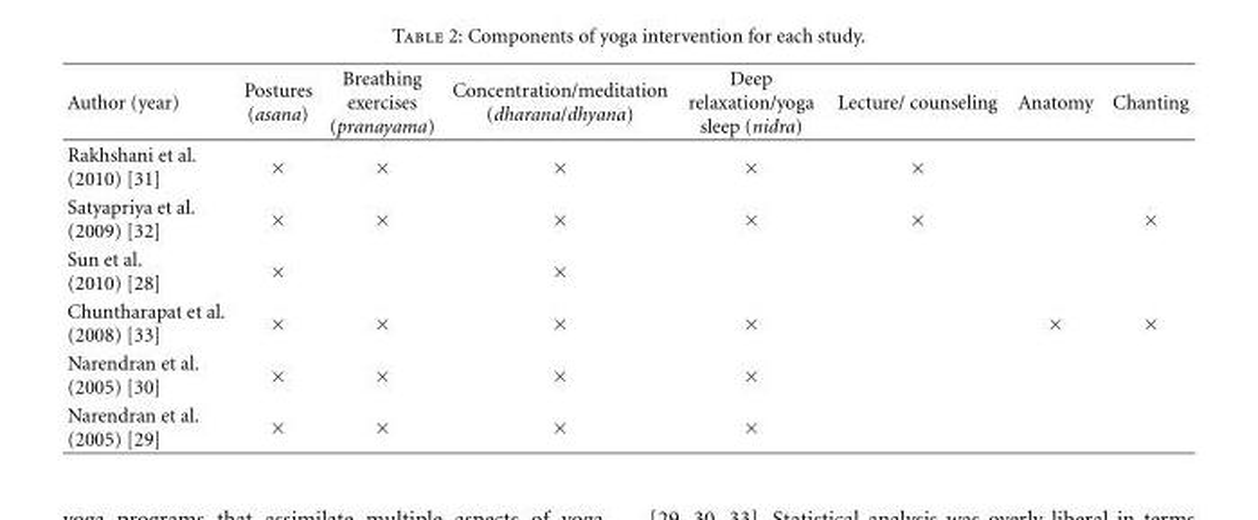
<table><thead><tr><td>Author (year)</td><td>Postures (asana)</td><td>Breathing exercises (pranayama)</td><td>Concentration/meditation (dharana/dhyana)</td><td>Deep relaxation/yoga sleep (nidra)</td><td>Lecture/ counseling</td><td>Anatomy</td><td>Chanting</td></tr></thead><tbody><tr><td>Rakhshani et al. (2010) [31]</td><td>×</td><td>×</td><td>×</td><td>×</td><td>×</td><td></td><td></td></tr><tr><td>Satyapriya et al. (2009) [32]</td><td>×</td><td>×</td><td>×</td><td>×</td><td>×</td><td></td><td>×</td></tr><tr><td>Sun et al. (2010) [28]</td><td>×</td><td></td><td>×</td><td></td><td></td><td></td><td></td></tr><tr><td>Chuntharapat et al. (2008) [33]</td><td>×</td><td>×</td><td>×</td><td>×</td><td></td><td>×</td><td>×</td></tr><tr><td>Narendran et al. (2005) [30]</td><td>×</td><td>×</td><td>×</td><td>×</td><td></td><td></td><td></td></tr><tr><td>Narendran et al. (2005) [29]</td><td>×</td><td>×</td><td>×</td><td>×</td><td></td><td></td><td></td></tr></tbody></table>